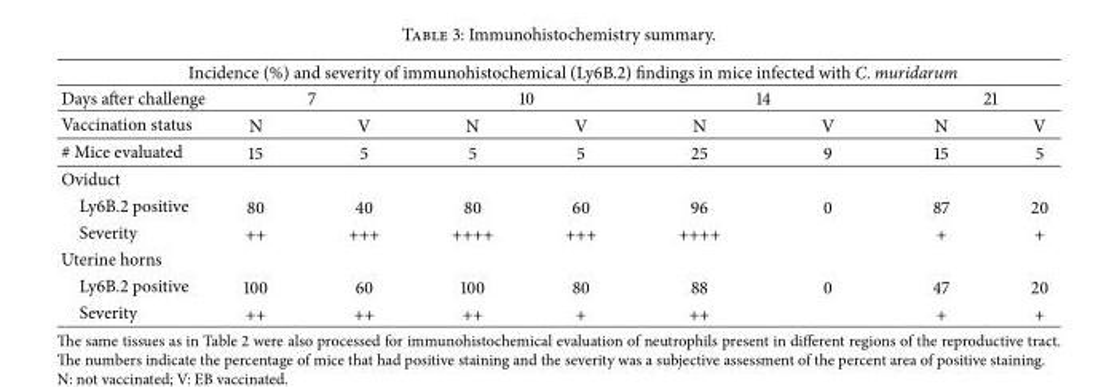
<table><tbody><tr><td colspan="9">Incidence (%) and severity of immunohistochemical (Ly6B.2) findings in mice infected with C. muridarum</td></tr><tr><td>Days after challenge</td><td colspan="2">7</td><td colspan="2">10</td><td colspan="2">14</td><td colspan="2">21</td></tr><tr><td>Vaccination status</td><td>N</td><td>V</td><td>N</td><td>V</td><td>N</td><td>V</td><td>N</td><td>V</td></tr><tr><td># Mice evaluated</td><td>15</td><td>5</td><td>5</td><td>5</td><td>25</td><td>9</td><td>15</td><td>5</td></tr><tr><td colspan="9">Oviduct</td></tr><tr><td>Ly6B.2 positive</td><td>80</td><td>40</td><td>80</td><td>60</td><td>96</td><td>0</td><td>87</td><td>20</td></tr><tr><td>Severity</td><td>++</td><td>+++</td><td>++++</td><td>+++</td><td>++++</td><td></td><td>+</td><td>+</td></tr><tr><td colspan="9">Uterine horns</td></tr><tr><td>Ly6B.2 positive</td><td>100</td><td>60</td><td>100</td><td>80</td><td>88</td><td>0</td><td>47</td><td>20</td></tr><tr><td>Severity</td><td>++</td><td>++</td><td>++</td><td>+</td><td>++</td><td></td><td>+</td><td>+</td></tr></tbody></table>